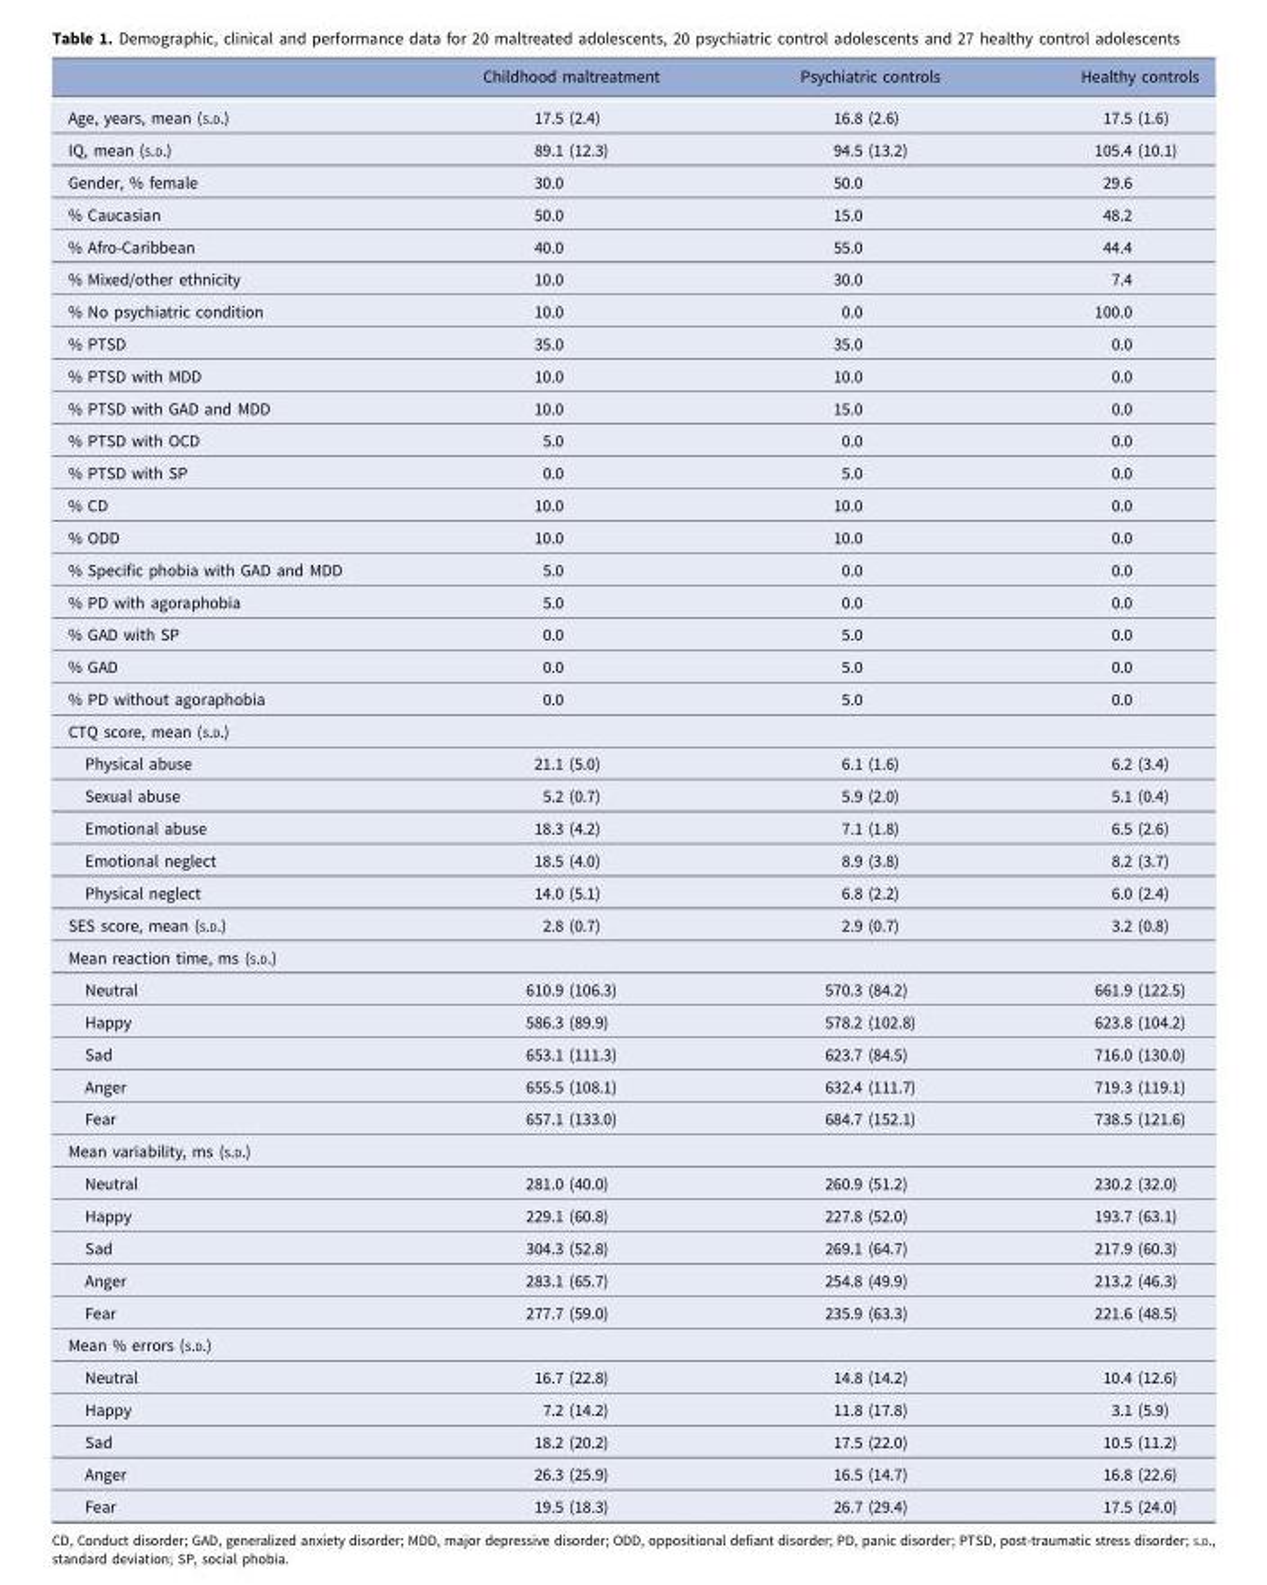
<table><thead><tr><td></td><td>Childhood maltreatment</td><td>Psychiatric controls</td><td>Healthy controls</td></tr></thead><tbody><tr><td>Age, years, mean (S.D.)</td><td>17.5 (2.4)</td><td>16.8 (2.6)</td><td>17.5 (1.6)</td></tr><tr><td>IQ, mean (S.D.)</td><td>89.1 (12.3)</td><td>94.5 (13.2)</td><td>105.4 (10.1)</td></tr><tr><td>Gender, % female</td><td>30.0</td><td>50.0</td><td>29.6</td></tr><tr><td>% Caucasian</td><td>50.0</td><td>15.0</td><td>48.2</td></tr><tr><td>% Afro-Caribbean</td><td>40.0</td><td>55.0</td><td>44.4</td></tr><tr><td>% Mixed/other ethnicity</td><td>10.0</td><td>30.0</td><td>7.4</td></tr><tr><td>% No psychiatric condition</td><td>10.0</td><td>0.0</td><td>100.0</td></tr><tr><td>% PTSD</td><td>35.0</td><td>35.0</td><td>0.0</td></tr><tr><td>% PTSD with MDD</td><td>10.0</td><td>10.0</td><td>0.0</td></tr><tr><td>% PTSD with GAD and MDD</td><td>10.0</td><td>15.0</td><td>0.0</td></tr><tr><td>% PTSD with OCD</td><td>5.0</td><td>0.0</td><td>0.0</td></tr><tr><td>% PTSD with SP</td><td>0.0</td><td>5.0</td><td>0.0</td></tr><tr><td>% CD</td><td>10.0</td><td>10.0</td><td>0.0</td></tr><tr><td>% ODD</td><td>10.0</td><td>10.0</td><td>0.0</td></tr><tr><td>% Specific phobia with GAD and MDD</td><td>5.0</td><td>0.0</td><td>0.0</td></tr><tr><td>% PD with agoraphobia</td><td>5.0</td><td>0.0</td><td>0.0</td></tr><tr><td>% GAD with SP</td><td>0.0</td><td>5.0</td><td>0.0</td></tr><tr><td>% GAD</td><td>0.0</td><td>5.0</td><td>0.0</td></tr><tr><td>% PD without agoraphobia</td><td>0.0</td><td>5.0</td><td>0.0</td></tr><tr><td colspan="4">CTQ score, mean (S.D.)</td></tr><tr><td>Physical abuse</td><td>21.1 (5.0)</td><td>6.1 (1.6)</td><td>6.2 (3.4)</td></tr><tr><td>Sexual abuse</td><td>5.2 (0.7)</td><td>5.9 (2.0)</td><td>5.1 (0.4)</td></tr><tr><td>Emotional abuse</td><td>18.3 (4.2)</td><td>7.1 (1.8)</td><td>6.5 (2.6)</td></tr><tr><td>Emotional neglect</td><td>18.5 (4.0)</td><td>8.9 (3.8)</td><td>8.2 (3.7)</td></tr><tr><td>Physical neglect</td><td>14.0 (5.1)</td><td>6.8 (2.2)</td><td>6.0 (2.4)</td></tr><tr><td>SES score, mean (S.D.)</td><td>2.8 (0.7)</td><td>2.9 (0.7)</td><td>3.2 (0.8)</td></tr><tr><td colspan="4">Mean reaction time, ms (S.D.)</td></tr><tr><td>Neutral</td><td>610.9 (106.3)</td><td>570.3 (84.2)</td><td>661.9 (122.5)</td></tr><tr><td>Happy</td><td>586.3 (89.9)</td><td>578.2 (102.8)</td><td>623.8 (104.2)</td></tr><tr><td>Sad</td><td>653.1 (111.3)</td><td>623.7 (84.5)</td><td>716.0 (130.0)</td></tr><tr><td>Anger</td><td>655.5 (108.1)</td><td>632.4 (111.7)</td><td>719.3 (119.1)</td></tr><tr><td>Fear</td><td>657.1 (133.0)</td><td>684.7 (152.1)</td><td>738.5 (121.6)</td></tr><tr><td colspan="4">Mean variability, ms (S.D.)</td></tr><tr><td>Neutral</td><td>281.0 (40.0)</td><td>260.9 (51.2)</td><td>230.2 (32.0)</td></tr><tr><td>Happy</td><td>229.1 (60.8)</td><td>227.8 (52.0)</td><td>193.7 (63.1)</td></tr><tr><td>Sad</td><td>304.3 (52.8)</td><td>269.1 (64.7)</td><td>217.9 (60.3)</td></tr><tr><td>Anger</td><td>283.1 (65.7)</td><td>254.8 (49.9)</td><td>213.2 (46.3)</td></tr><tr><td>Fear</td><td>277.7 (59.0)</td><td>235.9 (63.3)</td><td>221.6 (48.5)</td></tr><tr><td colspan="4">Mean % errors (S.D.)</td></tr><tr><td>Neutral</td><td>16.7 (22.8)</td><td>14.8 (14.2)</td><td>10.4 (12.6)</td></tr><tr><td>Happy</td><td>7.2 (14.2)</td><td>11.8 (17.8)</td><td>3.1 (5.9)</td></tr><tr><td>Sad</td><td>18.2 (20.2)</td><td>17.5 (22.0)</td><td>10.5 (11.2)</td></tr><tr><td>Anger</td><td>26.3 (25.9)</td><td>16.5 (14.7)</td><td>16.8 (22.6)</td></tr><tr><td>Fear</td><td>19.5 (18.3)</td><td>26.7 (29.4)</td><td>17.5 (24.0)</td></tr></tbody></table>